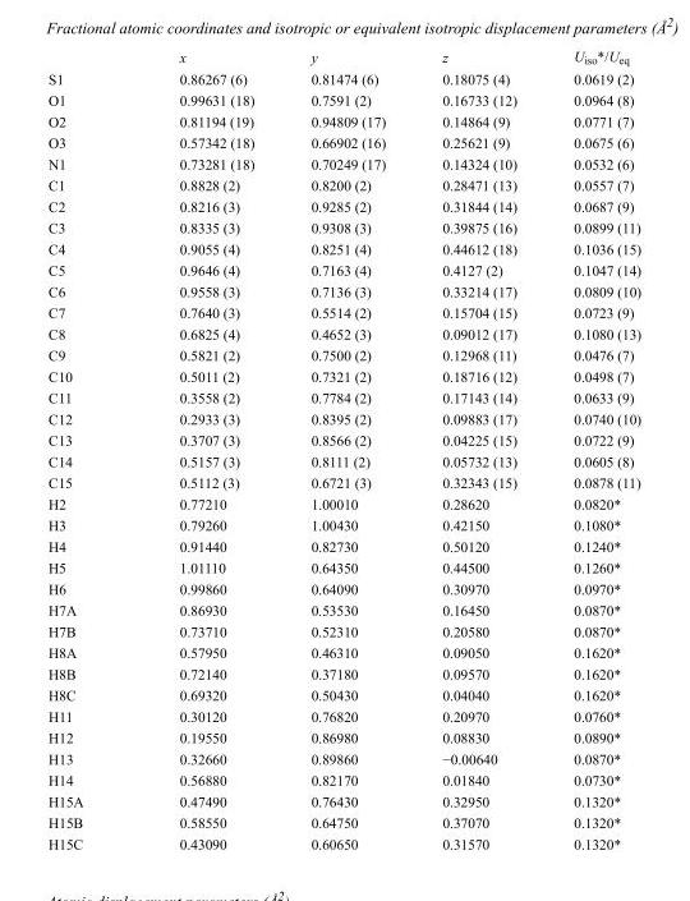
<table><thead><tr><td></td><td>x</td><td>y</td><td>z</td><td>U<sub>iso</sub>*/U<sub>eq</sub></td></tr></thead><tbody><tr><td>S1</td><td>0.86267 (6)</td><td>0.81474 (6)</td><td>0.18075 (4)</td><td>0.0619 (2)</td></tr><tr><td>O1</td><td>0.99631 (18)</td><td>0.7591 (2)</td><td>0.16733 (12)</td><td>0.0964 (8)</td></tr><tr><td>O2</td><td>0.81194 (19)</td><td>0.94809 (17)</td><td>0.14864 (9)</td><td>0.0771 (7)</td></tr><tr><td>O3</td><td>0.57342 (18)</td><td>0.66902 (16)</td><td>0.25621 (9)</td><td>0.0675 (6)</td></tr><tr><td>N1</td><td>0.73281 (18)</td><td>0.70249 (17)</td><td>0.14324 (10)</td><td>0.0532 (6)</td></tr><tr><td>C1</td><td>0.8828 (2)</td><td>0.8200 (2)</td><td>0.28471 (13)</td><td>0.0557 (7)</td></tr><tr><td>C2</td><td>0.8216 (3)</td><td>0.9285 (2)</td><td>0.31844 (14)</td><td>0.0687 (9)</td></tr><tr><td>C3</td><td>0.8335 (3)</td><td>0.9308 (3)</td><td>0.39875 (16)</td><td>0.0899 (11)</td></tr><tr><td>C4</td><td>0.9055 (4)</td><td>0.8251 (4)</td><td>0.44612 (18)</td><td>0.1036 (15)</td></tr><tr><td>C5</td><td>0.9646 (4)</td><td>0.7163 (4)</td><td>0.4127 (2)</td><td>0.1047 (14)</td></tr><tr><td>C6</td><td>0.9558 (3)</td><td>0.7136 (3)</td><td>0.33214 (17)</td><td>0.0809 (10)</td></tr><tr><td>C7</td><td>0.7640 (3)</td><td>0.5514 (2)</td><td>0.15704 (15)</td><td>0.0723 (9)</td></tr><tr><td>C8</td><td>0.6825 (4)</td><td>0.4652 (3)</td><td>0.09012 (17)</td><td>0.1080 (13)</td></tr><tr><td>C9</td><td>0.5821 (2)</td><td>0.7500 (2)</td><td>0.12968 (11)</td><td>0.0476 (7)</td></tr><tr><td>C10</td><td>0.5011 (2)</td><td>0.7321 (2)</td><td>0.18716 (12)</td><td>0.0498 (7)</td></tr><tr><td>C11</td><td>0.3558 (2)</td><td>0.7784 (2)</td><td>0.17143 (14)</td><td>0.0633 (9)</td></tr><tr><td>C12</td><td>0.2933 (3)</td><td>0.8395 (2)</td><td>0.09883 (17)</td><td>0.0740 (10)</td></tr><tr><td>C13</td><td>0.3707 (3)</td><td>0.8566 (2)</td><td>0.04225 (15)</td><td>0.0722 (9)</td></tr><tr><td>C14</td><td>0.5157 (3)</td><td>0.8111 (2)</td><td>0.05732 (13)</td><td>0.0605 (8)</td></tr><tr><td>C15</td><td>0.5112 (3)</td><td>0.6721 (3)</td><td>0.32343 (15)</td><td>0.0878 (11)</td></tr><tr><td>H2</td><td>0.77210</td><td>1.00010</td><td>0.28620</td><td>0.0820*</td></tr><tr><td>H3</td><td>0.79260</td><td>1.00430</td><td>0.42150</td><td>0.1080*</td></tr><tr><td>H4</td><td>0.91440</td><td>0.82730</td><td>0.50120</td><td>0.1240*</td></tr><tr><td>H5</td><td>1.01110</td><td>0.64350</td><td>0.44500</td><td>0.1260*</td></tr><tr><td>H6</td><td>0.99860</td><td>0.64090</td><td>0.30970</td><td>0.0970*</td></tr><tr><td>H7A</td><td>0.86930</td><td>0.53530</td><td>0.16450</td><td>0.0870*</td></tr><tr><td>H7B</td><td>0.73710</td><td>0.52310</td><td>0.20580</td><td>0.0870*</td></tr><tr><td>H8A</td><td>0.57950</td><td>0.46310</td><td>0.09050</td><td>0.1620*</td></tr><tr><td>H8B</td><td>0.72140</td><td>0.37180</td><td>0.09570</td><td>0.1620*</td></tr><tr><td>H8C</td><td>0.69320</td><td>0.50430</td><td>0.04040</td><td>0.1620*</td></tr><tr><td>H11</td><td>0.30120</td><td>0.76820</td><td>0.20970</td><td>0.0760*</td></tr><tr><td>H12</td><td>0.19550</td><td>0.86980</td><td>0.08830</td><td>0.0890*</td></tr><tr><td>H13</td><td>0.32660</td><td>0.89860</td><td>−0.00640</td><td>0.0870*</td></tr><tr><td>H14</td><td>0.56880</td><td>0.82170</td><td>0.01840</td><td>0.0730*</td></tr><tr><td>H15A</td><td>0.47490</td><td>0.76430</td><td>0.32950</td><td>0.1320*</td></tr><tr><td>H15B</td><td>0.58550</td><td>0.64750</td><td>0.37070</td><td>0.1320*</td></tr><tr><td>H15C</td><td>0.43090</td><td>0.60650</td><td>0.31570</td><td>0.1320*</td></tr></tbody></table>